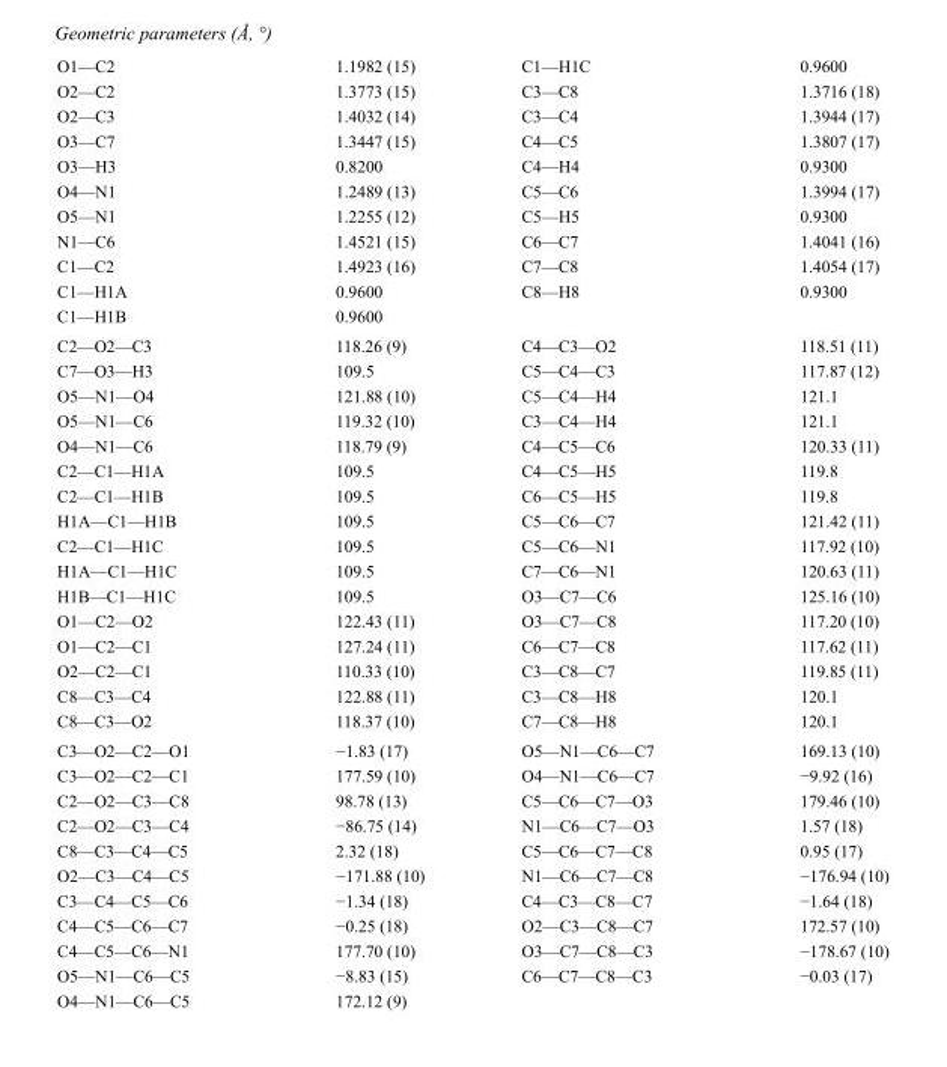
<table><tbody><tr><td>O1—C2</td><td>1.1982 (15)</td><td>C1—H1C</td><td>0.9600</td></tr><tr><td>O2—C2</td><td>1.3773 (15)</td><td>C3—C8</td><td>1.3716 (18)</td></tr><tr><td>O2—C3</td><td>1.4032 (14)</td><td>C3—C4</td><td>1.3944 (17)</td></tr><tr><td>O3—C7</td><td>1.3447 (15)</td><td>C4—C5</td><td>1.3807 (17)</td></tr><tr><td>O3—H3</td><td>0.8200</td><td>C4—H4</td><td>0.9300</td></tr><tr><td>O4—N1</td><td>1.2489 (13)</td><td>C5—C6</td><td>1.3994 (17)</td></tr><tr><td>O5—N1</td><td>1.2255 (12)</td><td>C5—H5</td><td>0.9300</td></tr><tr><td>N1—C6</td><td>1.4521 (15)</td><td>C6—C7</td><td>1.4041 (16)</td></tr><tr><td>C1—C2</td><td>1.4923 (16)</td><td>C7—C8</td><td>1.4054 (17)</td></tr><tr><td>C1—H1A</td><td>0.9600</td><td>C8—H8</td><td>0.9300</td></tr><tr><td>C1—H1B</td><td>0.9600</td><td></td><td></td></tr><tr><td>C2—O2—C3</td><td>118.26 (9)</td><td>C4—C3—O2</td><td>118.51 (11)</td></tr><tr><td>C7—O3—H3</td><td>109.5</td><td>C5—C4—C3</td><td>117.87 (12)</td></tr><tr><td>O5—N1—O4</td><td>121.88 (10)</td><td>C5—C4—H4</td><td>121.1</td></tr><tr><td>O5—N1—C6</td><td>119.32 (10)</td><td>C3—C4—H4</td><td>121.1</td></tr><tr><td>O4—N1—C6</td><td>118.79 (9)</td><td>C4—C5—C6</td><td>120.33 (11)</td></tr><tr><td>C2—C1—H1A</td><td>109.5</td><td>C4—C5—H5</td><td>119.8</td></tr><tr><td>C2—C1—H1B</td><td>109.5</td><td>C6—C5—H5</td><td>119.8</td></tr><tr><td>H1A—C1—H1B</td><td>109.5</td><td>C5—C6—C7</td><td>121.42 (11)</td></tr><tr><td>C2—C1—H1C</td><td>109.5</td><td>C5—C6—N1</td><td>117.92 (10)</td></tr><tr><td>H1A—C1—H1C</td><td>109.5</td><td>C7—C6—N1</td><td>120.63 (11)</td></tr><tr><td>H1B—C1—H1C</td><td>109.5</td><td>O3—C7—C6</td><td>125.16 (10)</td></tr><tr><td>O1—C2—O2</td><td>122.43 (11)</td><td>O3—C7—C8</td><td>117.20 (10)</td></tr><tr><td>O1—C2—C1</td><td>127.24 (11)</td><td>C6—C7—C8</td><td>117.62 (11)</td></tr><tr><td>O2—C2—C1</td><td>110.33 (10)</td><td>C3—C8—C7</td><td>119.85 (11)</td></tr><tr><td>C8—C3—C4</td><td>122.88 (11)</td><td>C3—C8—H8</td><td>120.1</td></tr><tr><td>C8—C3—O2</td><td>118.37 (10)</td><td>C7—C8—H8</td><td>120.1</td></tr><tr><td>C3—O2—C2—O1</td><td>−1.83 (17)</td><td>O5—N1—C6—C7</td><td>169.13 (10)</td></tr><tr><td>C3—O2—C2—C1</td><td>177.59 (10)</td><td>O4—N1—C6—C7</td><td>−9.92 (16)</td></tr><tr><td>C2—O2—C3—C8</td><td>98.78 (13)</td><td>C5—C6—C7—O3</td><td>179.46 (10)</td></tr><tr><td>C2—O2—C3—C4</td><td>−86.75 (14)</td><td>N1—C6—C7—O3</td><td>1.57 (18)</td></tr><tr><td>C8—C3—C4—C5</td><td>2.32 (18)</td><td>C5—C6—C7—C8</td><td>0.95 (17)</td></tr><tr><td>O2—C3—C4—C5</td><td>−171.88 (10)</td><td>N1—C6—C7—C8</td><td>−176.94 (10)</td></tr><tr><td>C3—C4—C5—C6</td><td>−1.34 (18)</td><td>C4—C3—C8—C7</td><td>−1.64 (18)</td></tr><tr><td>C4—C5—C6—C7</td><td>−0.25 (18)</td><td>O2—C3—C8—C7</td><td>172.57 (10)</td></tr><tr><td>C4—C5—C6—N1</td><td>177.70 (10)</td><td>O3—C7—C8—C3</td><td>−178.67 (10)</td></tr><tr><td>O5—N1—C6—C5</td><td>−8.83 (15)</td><td>C6—C7—C8—C3</td><td>−0.03 (17)</td></tr><tr><td>O4—N1—C6—C5</td><td>172.12 (9)</td><td></td><td></td></tr></tbody></table>